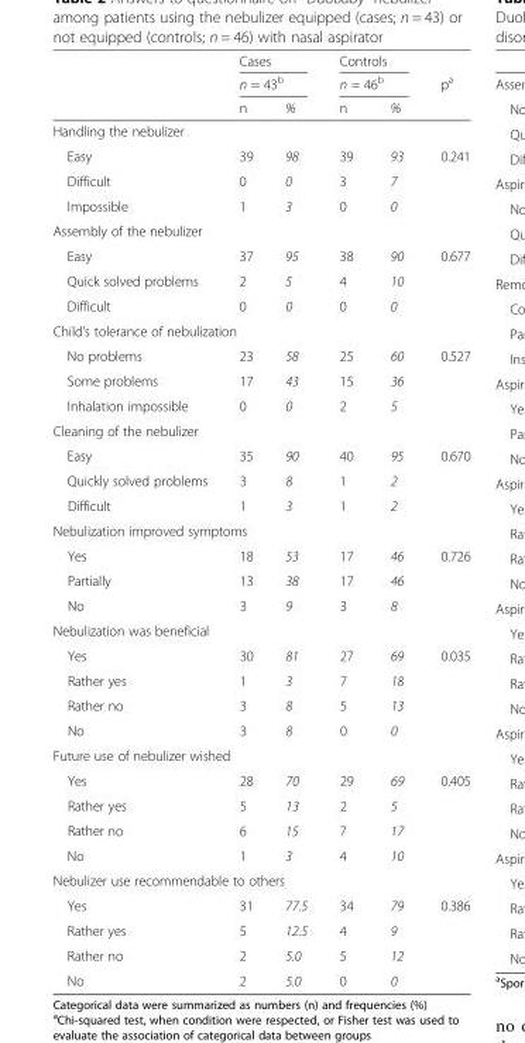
<table><thead><tr><td rowspan="3"></td><td rowspan="2" colspan="2">Cases n = 43<sup>b</sup></td><td rowspan="2" colspan="2">Controls n = 46<sup>b</sup></td><td rowspan="3">p<sup>a</sup></td></tr><tr></tr><tr><td>n</td><td>%</td><td>n</td><td>%</td></tr></thead><tbody><tr><td colspan="6">Handling the nebulizer</td></tr><tr><td>Easy</td><td>39</td><td>98</td><td>39</td><td>93</td><td rowspan="3">0.241</td></tr><tr><td>Difficult</td><td>0</td><td>0</td><td>3</td><td>7</td></tr><tr><td>Impossible</td><td>1</td><td>3</td><td>0</td><td>0</td></tr><tr><td colspan="6">Assembly of the nebulizer</td></tr><tr><td>Easy</td><td>37</td><td>95</td><td>38</td><td>90</td><td rowspan="3">0.677</td></tr><tr><td>Quick solved problems</td><td>2</td><td>5</td><td>4</td><td>10</td></tr><tr><td>Difficult</td><td>0</td><td>0</td><td>0</td><td>0</td></tr><tr><td colspan="6">Child’s tolerance of nebulization</td></tr><tr><td>No problems</td><td>23</td><td>58</td><td>25</td><td>60</td><td rowspan="3">0.527</td></tr><tr><td>Some problems</td><td>17</td><td>43</td><td>15</td><td>36</td></tr><tr><td>Inhalation impossible</td><td>0</td><td>0</td><td>2</td><td>5</td></tr><tr><td colspan="6">Cleaning of the nebulizer</td></tr><tr><td>Easy</td><td>35</td><td>90</td><td>40</td><td>95</td><td rowspan="3">0.670</td></tr><tr><td>Quickly solved problems</td><td>3</td><td>8</td><td>1</td><td>2</td></tr><tr><td>Difficult</td><td>1</td><td>3</td><td>1</td><td>2</td></tr><tr><td colspan="6">Nebulization improved symptoms</td></tr><tr><td>Yes</td><td>18</td><td>53</td><td>17</td><td>46</td><td rowspan="3">0.726</td></tr><tr><td>Partially</td><td>13</td><td>38</td><td>17</td><td>46</td></tr><tr><td>No</td><td>3</td><td>9</td><td>3</td><td>8</td></tr><tr><td colspan="6">Nebulization was beneficial</td></tr><tr><td>Yes</td><td>30</td><td>81</td><td>27</td><td>69</td><td rowspan="4">0.035</td></tr><tr><td>Rather yes</td><td>1</td><td>3</td><td>7</td><td>18</td></tr><tr><td>Rather no</td><td>3</td><td>8</td><td>5</td><td>13</td></tr><tr><td>No</td><td>3</td><td>8</td><td>0</td><td>0</td></tr><tr><td colspan="6">Future use of nebulizer wished</td></tr><tr><td>Yes</td><td>28</td><td>70</td><td>29</td><td>69</td><td rowspan="4">0.405</td></tr><tr><td>Rather yes</td><td>5</td><td>13</td><td>2</td><td>5</td></tr><tr><td>Rather no</td><td>6</td><td>15</td><td>7</td><td>17</td></tr><tr><td>No</td><td>1</td><td>3</td><td>4</td><td>10</td></tr><tr><td colspan="6">Nebulizer use recommendable to others</td></tr><tr><td>Yes</td><td>31</td><td>77.5</td><td>34</td><td>79</td><td rowspan="4">0.386</td></tr><tr><td>Rather yes</td><td>5</td><td>12.5</td><td>4</td><td>9</td></tr><tr><td>Rather no</td><td>2</td><td>5.0</td><td>5</td><td>12</td></tr><tr><td>No</td><td>2</td><td>5.0</td><td>0</td><td>0</td></tr></tbody></table>